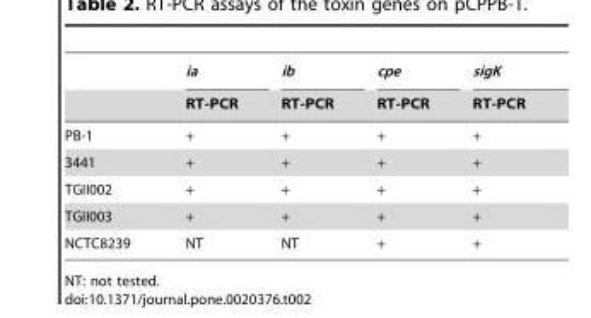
<table><thead><tr><td rowspan="2"></td><td rowspan="2">ia RT-PCR</td><td rowspan="2">ib RT-PCR</td><td rowspan="2">cpe RT-PCR</td><td rowspan="2">sigK RT-PCR</td></tr><tr></tr></thead><tbody><tr><td>PB-1</td><td>+</td><td>+</td><td>+</td><td>+</td></tr><tr><td>3441</td><td>+</td><td>+</td><td>+</td><td>+</td></tr><tr><td>TGII002</td><td>+</td><td>+</td><td>+</td><td>+</td></tr><tr><td>TGII003</td><td>+</td><td>+</td><td>+</td><td>+</td></tr><tr><td>NCTC8239</td><td>NT</td><td>NT</td><td>+</td><td>+</td></tr></tbody></table>